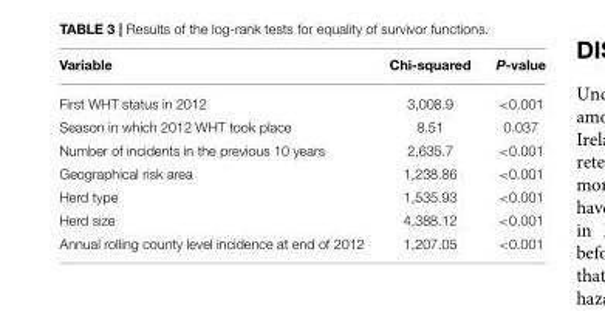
<table><thead><tr><td>Variable</td><td>Chi-squared</td><td>P-value</td></tr></thead><tbody><tr><td>First WHT status in 2012</td><td>3,008.9</td><td>&lt;0.001</td></tr><tr><td>Season in which 2012 WHT took place</td><td>8.51</td><td>0.037</td></tr><tr><td>Number of incidents in the previous 10 years</td><td>2,635.7</td><td>&lt;0.001</td></tr><tr><td>Geographical risk area</td><td>1,238.86</td><td>&lt;0.001</td></tr><tr><td>Herd type</td><td>1,535.93</td><td>&lt;0.001</td></tr><tr><td>Herd size</td><td>4,388.12</td><td>&lt;0.001</td></tr><tr><td>Annual rolling county level incidence at end of 2012</td><td>1,207.05</td><td>&lt;0.001</td></tr></tbody></table>